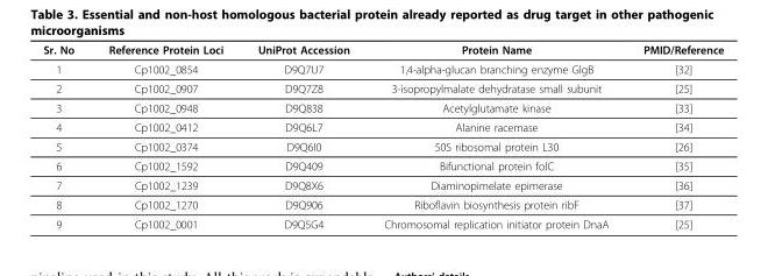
<table><thead><tr><td>Sr. No</td><td>Reference Protein Loci</td><td>UniProt Accession</td><td>Protein Name</td><td>PMID/Reference</td></tr></thead><tbody><tr><td>1</td><td>Cp1002_0854</td><td>D9Q7U7</td><td>1,4-alpha-glucan branching enzyme GlgB</td><td>[32]</td></tr><tr><td>2</td><td>Cp1002_0907</td><td>D9Q7Z8</td><td>3-isopropylmalate dehydratase small subunit</td><td>[25]</td></tr><tr><td>3</td><td>Cp1002_0948</td><td>D9Q838</td><td>Acetylglutamate kinase</td><td>[33]</td></tr><tr><td>4</td><td>Cp1002_0412</td><td>D9Q6L7</td><td>Alanine racemase</td><td>[34]</td></tr><tr><td>5</td><td>Cp1002_0374</td><td>D9Q6I0</td><td>50S ribosomal protein L30</td><td>[26]</td></tr><tr><td>6</td><td>Cp1002_1592</td><td>D9Q409</td><td>Bifunctional protein folC</td><td>[35]</td></tr><tr><td>7</td><td>Cp1002_1239</td><td>D9Q8X6</td><td>Diaminopimelate epimerase</td><td>[36]</td></tr><tr><td>8</td><td>Cp1002_1270</td><td>D9Q906</td><td>Riboflavin biosynthesis protein ribF</td><td>[37]</td></tr><tr><td>9</td><td>Cp1002_0001</td><td>D9Q5G4</td><td>Chromosomal replication initiator protein DnaA</td><td>[25]</td></tr></tbody></table>